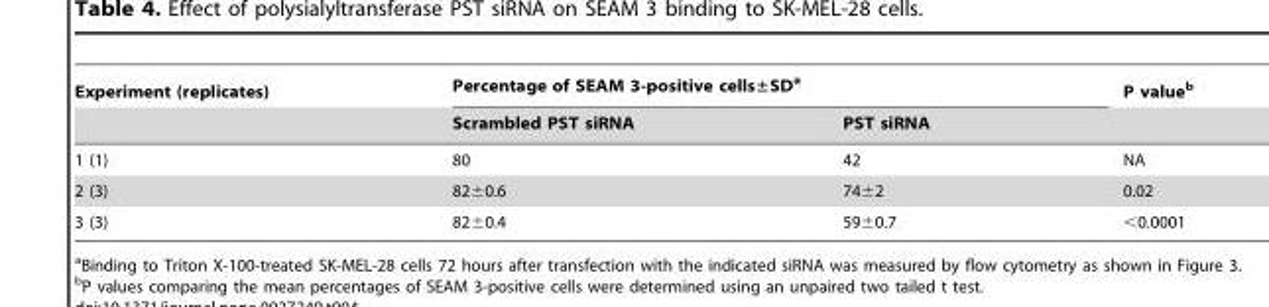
<table><thead><tr><td rowspan="2">Experiment (replicates)</td><td colspan="2">Percentage of SEAM 3-positive cells±SD<sup>a</sup></td><td rowspan="2">P value<sup>b</sup></td></tr><tr><td>Scrambled PST siRNA</td><td>PST siRNA</td></tr></thead><tbody><tr><td>1 (1)</td><td>80</td><td>42</td><td>NA</td></tr><tr><td>2 (3)</td><td>82±0.6</td><td>74±2</td><td>0.02</td></tr><tr><td>3 (3)</td><td>82±0.4</td><td>59±0.7</td><td>&lt;0.0001</td></tr></tbody></table>